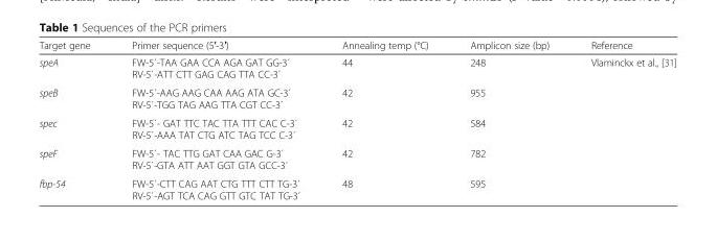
<table><thead><tr><td>Target gene</td><td>Primer sequence (5′-3′)</td><td>Annealing temp (°C)</td><td>Amplicon size (bp)</td><td>Reference</td></tr></thead><tbody><tr><td>speA</td><td>FW-5΄-TAA GAA CCA AGA GAT GG-3΄ RV-5΄-ATT CTT GAG CAG TTA CC-3΄</td><td>44</td><td>248</td><td rowspan="5">Vlaminckx et al., [31]</td></tr><tr><td>speB</td><td>FW-5΄-AAG AAG CAA AAG ATA GC-3΄ RV-5΄-TGG TAG AAG TTA CGT CC-3΄</td><td>42</td><td>955</td></tr><tr><td>spec</td><td>FW-5΄- GAT TTC TAC TTA TTT CAC C-3΄ RV-5΄-AAA TAT CTG ATC TAG TCC C-3΄</td><td>42</td><td>584</td></tr><tr><td>speF</td><td>FW-5΄- TAC TTG GAT CAA GAC G-3΄ RV-5΄-GTA ATT AAT GGT GTA GCC-3΄</td><td>42</td><td>782</td></tr><tr><td>fbp-54</td><td>FW-5΄-CTT CAG AAT CTG TTT CTT TG-3΄ RV-5΄-AGT TCA CAG GTT GTC TAT TG-3΄</td><td>48</td><td>595</td></tr></tbody></table>